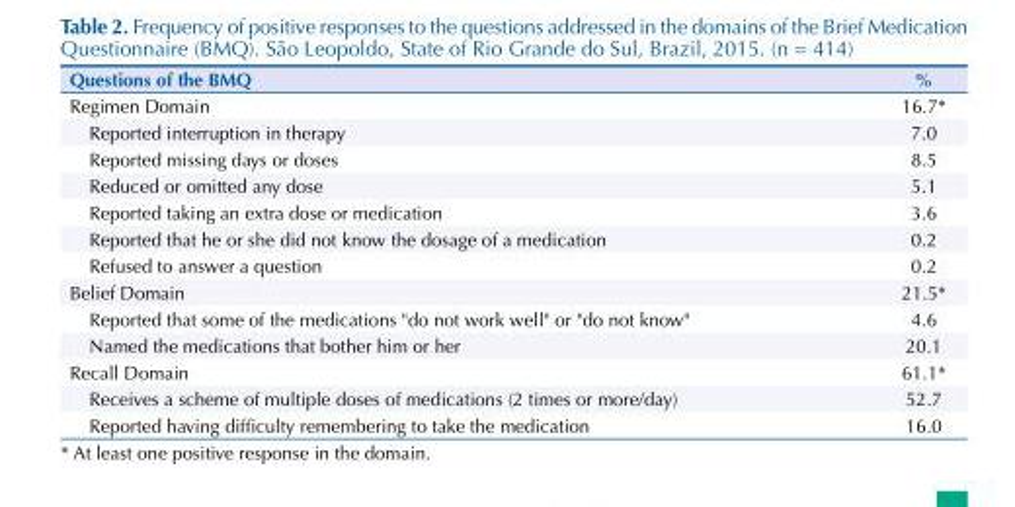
<table><thead><tr><td>Questions of the BMQ</td><td>%</td></tr></thead><tbody><tr><td>Regimen Domain</td><td>16.7*</td></tr><tr><td>Reported interruption in therapy</td><td>7.0</td></tr><tr><td>Reported missing days or doses</td><td>8.5</td></tr><tr><td>Reduced or omitted any dose</td><td>5.1</td></tr><tr><td>Reported taking an extra dose or medication</td><td>3.6</td></tr><tr><td>Reported that he or she did not know the dosage of a medication</td><td>0.2</td></tr><tr><td>Refused to answer a question</td><td>0.2</td></tr><tr><td>Belief Domain</td><td>21.5*</td></tr><tr><td>Reported that some of the medications &quot;do not work well&quot; or &quot;do not know&quot;</td><td>4.6</td></tr><tr><td>Named the medications that bother him or her</td><td>20.1</td></tr><tr><td>Recall Domain</td><td>61.1*</td></tr><tr><td>Receives a scheme of multiple doses of medications (2 times or more/day)</td><td>52.7</td></tr><tr><td>Reported having difficulty remembering to take the medication</td><td>16.0</td></tr></tbody></table>